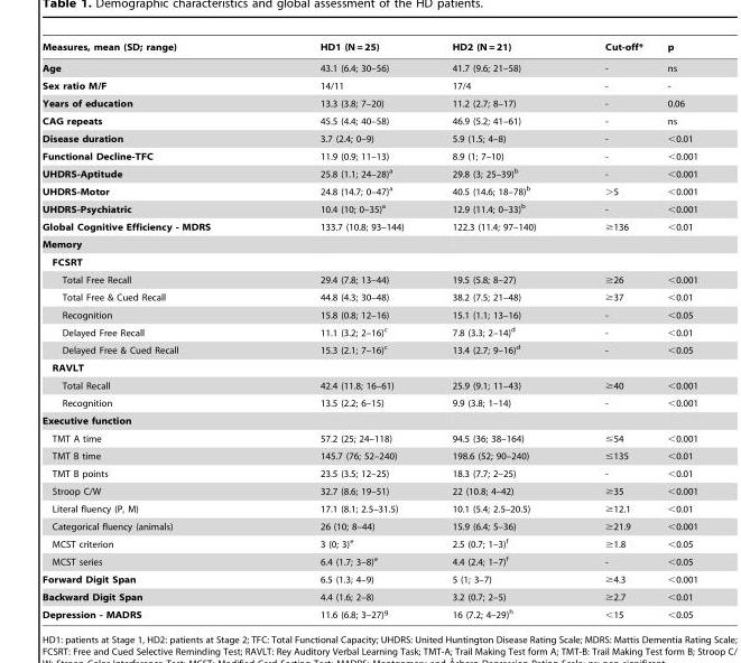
<table><thead><tr><td>Measures, mean (SD; range)</td><td>HD1 (N = 25)</td><td>HD2 (N = 21)</td><td>Cut-off*</td><td>p</td></tr></thead><tbody><tr><td>Age</td><td>43.1 (6.4; 30–56)</td><td>41.7 (9.6; 21–58)</td><td>-</td><td>ns</td></tr><tr><td>Sex ratio M/F</td><td>14/11</td><td>17/4</td><td>-</td><td>-</td></tr><tr><td>Years of education</td><td>13.3 (3.8; 7–20)</td><td>11.2 (2.7; 8–17)</td><td>-</td><td>0.06</td></tr><tr><td>CAG repeats</td><td>45.5 (4.4; 40–58)</td><td>46.9 (5.2; 41–61)</td><td>-</td><td>ns</td></tr><tr><td>Disease duration</td><td>3.7 (2.4; 0–9)</td><td>5.9 (1.5; 4–8)</td><td>-</td><td>&lt;0.01</td></tr><tr><td>Functional Decline-TFC</td><td>11.9 (0.9; 11–13)</td><td>8.9 (1; 7–10)</td><td>-</td><td>&lt;0.001</td></tr><tr><td>UHDRS-Aptitude</td><td>25.8 (1.1; 24–28)<sup>a</sup></td><td>29.8 (3; 25–39)<sup>b</sup></td><td>-</td><td>&lt;0.001</td></tr><tr><td>UHDRS-Motor</td><td>24.8 (14.7; 0–47)<sup>a</sup></td><td>40.5 (14.6; 18–78)<sup>b</sup></td><td>&gt;5</td><td>&lt;0.001</td></tr><tr><td>UHDRS-Psychiatric</td><td>10.4 (10; 0–35)<sup>a</sup></td><td>12.9 (11.4; 0–33)<sup>b</sup></td><td>-</td><td>&lt;0.001</td></tr><tr><td>Global Cognitive Efficiency - MDRS</td><td>133.7 (10.8; 93–144)</td><td>122.3 (11.4; 97–140)</td><td>≥136</td><td>&lt;0.01</td></tr><tr><td colspan="5">Memory</td></tr><tr><td colspan="5">FCSRT</td></tr><tr><td>Total Free Recall</td><td>29.4 (7.8; 13–44)</td><td>19.5 (5.8; 8–27)</td><td>≥26</td><td>&lt;0.001</td></tr><tr><td>Total Free &amp; Cued Recall</td><td>44.8 (4.3; 30–48)</td><td>38.2 (7.5; 21–48)</td><td>≥37</td><td>&lt;0.01</td></tr><tr><td>Recognition</td><td>15.8 (0.8; 12–16)</td><td>15.1 (1.1; 13–16)</td><td>-</td><td>&lt;0.05</td></tr><tr><td>Delayed Free Recall</td><td>11.1 (3.2; 2–16)<sup>c</sup></td><td>7.8 (3.3; 2–14)<sup>d</sup></td><td>-</td><td>&lt;0.01</td></tr><tr><td>Delayed Free &amp; Cued Recall</td><td>15.3 (2.1; 7–16)<sup>c</sup></td><td>13.4 (2.7; 9–16)<sup>d</sup></td><td>-</td><td>&lt;0.05</td></tr><tr><td colspan="5">RAVLT</td></tr><tr><td>Total Recall</td><td>42.4 (11.8; 16–61)</td><td>25.9 (9.1; 11–43)</td><td>≥40</td><td>&lt;0.001</td></tr><tr><td>Recognition</td><td>13.5 (2.2; 6–15)</td><td>9.9 (3.8; 1–14)</td><td>-</td><td>&lt;0.001</td></tr><tr><td colspan="5">Executive function</td></tr><tr><td>TMT A time</td><td>57.2 (25; 24–118)</td><td>94.5 (36; 38–164)</td><td>≤54</td><td>&lt;0.001</td></tr><tr><td>TMT B time</td><td>145.7 (76; 52–240)</td><td>198.6 (52; 90–240)</td><td>≤135</td><td>&lt;0.01</td></tr><tr><td>TMT B points</td><td>23.5 (3.5; 12–25)</td><td>18.3 (7.7; 2–25)</td><td>-</td><td>&lt;0.01</td></tr><tr><td>Stroop C/W</td><td>32.7 (8.6; 19–51)</td><td>22 (10.8; 4–42)</td><td>≥35</td><td>&lt;0.001</td></tr><tr><td>Literal fluency (P, M)</td><td>17.1 (8.1; 2.5–31.5)</td><td>10.1 (5.4; 2.5–20.5)</td><td>≥12.1</td><td>&lt;0.01</td></tr><tr><td>Categorical fluency (animals)</td><td>26 (10; 8–44)</td><td>15.9 (6.4; 5–36)</td><td>≥21.9</td><td>&lt;0.001</td></tr><tr><td>MCST criterion</td><td>3 (0; 3)<sup>e</sup></td><td>2.5 (0.7; 1–3)<sup>f</sup></td><td>≥1.8</td><td>&lt;0.05</td></tr><tr><td>MCST series</td><td>6.4 (1.7; 3–8)<sup>e</sup></td><td>4.4 (2.4; 1–7)<sup>f</sup></td><td>-</td><td>&lt;0.05</td></tr><tr><td>Forward Digit Span</td><td>6.5 (1.3; 4–9)</td><td>5 (1; 3–7)</td><td>≥4.3</td><td>&lt;0.001</td></tr><tr><td>Backward Digit Span</td><td>4.4 (1.6; 2–8)</td><td>3.2 (0.7; 2–5)</td><td>≥2.7</td><td>&lt;0.01</td></tr><tr><td>Depression - MADRS</td><td>11.6 (6.8; 3–27)<sup>g</sup></td><td>16 (7.2; 4–29)<sup>h</sup></td><td>&lt;15</td><td>&lt;0.05</td></tr></tbody></table>